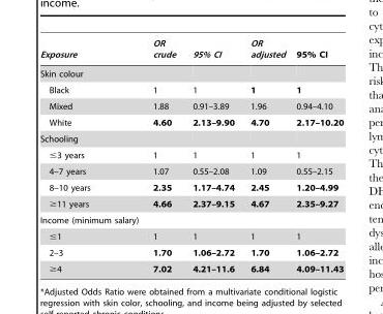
<table><thead><tr><td>Exposure</td><td>OR crude</td><td>95% CI</td><td>OR adjusted</td><td>95% CI</td></tr></thead><tbody><tr><td colspan="5">Skin colour</td></tr><tr><td>Black</td><td>1</td><td>1</td><td>1</td><td>1</td></tr><tr><td>Mixed</td><td>1.88</td><td>0.91–3.89</td><td>1.96</td><td>0.94–4.10</td></tr><tr><td>White</td><td>4.60</td><td>2.13–9.90</td><td>4.70</td><td>2.17–10.20</td></tr><tr><td colspan="5">Schooling</td></tr><tr><td>≤3 years</td><td>1</td><td>1</td><td>1</td><td>1</td></tr><tr><td>4–7 years</td><td>1.07</td><td>0.55–2.08</td><td>1.09</td><td>0.55–2.15</td></tr><tr><td>8–10 years</td><td>2.35</td><td>1.17–4.74</td><td>2.45</td><td>1.20–4.99</td></tr><tr><td>≥11 years</td><td>4.66</td><td>2.37–9.15</td><td>4.67</td><td>2.35–9.27</td></tr><tr><td colspan="5">Income (minimum salary)</td></tr><tr><td>≤1</td><td>1</td><td>1</td><td>1</td><td>1</td></tr><tr><td>2–3</td><td>1.70</td><td>1.06–2.72</td><td>1.70</td><td>1.06–2.72</td></tr><tr><td>≥4</td><td>7.02</td><td>4.21–11.6</td><td>6.84</td><td>4.09–11.43</td></tr></tbody></table>